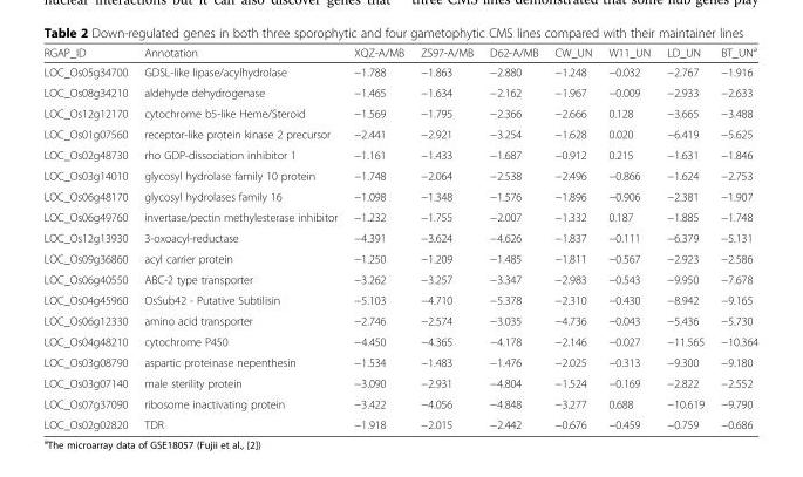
<table><thead><tr><td>RGAP_ID</td><td>Annotation</td><td>XQZ-A/MB</td><td>ZS97-A/MB</td><td>D62-A/MB</td><td>CW_UN</td><td>W11_UN</td><td>LD_UN</td><td>BT_UN<sup>a</sup></td></tr></thead><tbody><tr><td>LOC_Os05g34700</td><td>GDSL-like lipase/acylhydrolase</td><td>−1.788</td><td>−1.863</td><td>−2.880</td><td>−1.248</td><td>−0.032</td><td>−2.767</td><td>−1.916</td></tr><tr><td>LOC_Os08g34210</td><td>aldehyde dehydrogenase</td><td>−1.465</td><td>−1.634</td><td>−2.162</td><td>−1.967</td><td>−0.009</td><td>−2.933</td><td>−2.633</td></tr><tr><td>LOC_Os12g12170</td><td>cytochrome b5-like Heme/Steroid</td><td>−1.569</td><td>−1.795</td><td>−2.366</td><td>−2.666</td><td>0.128</td><td>−3.665</td><td>−3.488</td></tr><tr><td>LOC_Os01g07560</td><td>receptor-like protein kinase 2 precursor</td><td>−2.441</td><td>−2.921</td><td>−3.254</td><td>−1.628</td><td>0.020</td><td>−6.419</td><td>−5.625</td></tr><tr><td>LOC_Os02g48730</td><td>rho GDP-dissociation inhibitor 1</td><td>−1.161</td><td>−1.433</td><td>−1.687</td><td>−0.912</td><td>0.215</td><td>−1.631</td><td>−1.846</td></tr><tr><td>LOC_Os03g14010</td><td>glycosyl hydrolase family 10 protein</td><td>−1.748</td><td>−2.064</td><td>−2.538</td><td>−2.496</td><td>−0.866</td><td>−1.624</td><td>−2.753</td></tr><tr><td>LOC_Os06g48170</td><td>glycosyl hydrolases family 16</td><td>−1.098</td><td>−1.348</td><td>−1.576</td><td>−1.896</td><td>−0.906</td><td>−2.381</td><td>−1.907</td></tr><tr><td>LOC_Os06g49760</td><td>invertase/pectin methylesterase inhibitor</td><td>−1.232</td><td>−1.755</td><td>−2.007</td><td>−1.332</td><td>0.187</td><td>−1.885</td><td>−1.748</td></tr><tr><td>LOC_Os12g13930</td><td>3-oxoacyl-reductase</td><td>−4.391</td><td>−3.624</td><td>−4.626</td><td>−1.837</td><td>−0.111</td><td>−6.379</td><td>−5.131</td></tr><tr><td>LOC_Os09g36860</td><td>acyl carrier protein</td><td>−1.250</td><td>−1.209</td><td>−1.485</td><td>−1.811</td><td>−0.567</td><td>−2.923</td><td>−2.586</td></tr><tr><td>LOC_Os06g40550</td><td>ABC-2 type transporter</td><td>−3.262</td><td>−3.257</td><td>−3.347</td><td>−2.983</td><td>−0.543</td><td>−9.950</td><td>−7.678</td></tr><tr><td>LOC_Os04g45960</td><td>OsSub42 - Putative Subtilisin</td><td>−5.103</td><td>−4.710</td><td>−5.378</td><td>−2.310</td><td>−0.430</td><td>−8.942</td><td>−9.165</td></tr><tr><td>LOC_Os06g12330</td><td>amino acid transporter</td><td>−2.746</td><td>−2.574</td><td>−3.035</td><td>−4.736</td><td>−0.043</td><td>−5.436</td><td>−5.730</td></tr><tr><td>LOC_Os04g48210</td><td>cytochrome P450</td><td>−4.450</td><td>−4.365</td><td>−4.178</td><td>−2.146</td><td>−0.027</td><td>−11.565</td><td>−10.364</td></tr><tr><td>LOC_Os03g08790</td><td>aspartic proteinase nepenthesin</td><td>−1.534</td><td>−1.483</td><td>−1.476</td><td>−2.025</td><td>−0.313</td><td>−9.300</td><td>−9.180</td></tr><tr><td>LOC_Os03g07140</td><td>male sterility protein</td><td>−3.090</td><td>−2.931</td><td>−4.804</td><td>−1.524</td><td>−0.169</td><td>−2.822</td><td>−2.552</td></tr><tr><td>LOC_Os07g37090</td><td>ribosome inactivating protein</td><td>−3.422</td><td>−4.056</td><td>−4.848</td><td>−3.277</td><td>0.688</td><td>−10.619</td><td>−9.790</td></tr><tr><td>LOC_Os02g02820</td><td>TDR</td><td>−1.918</td><td>−2.015</td><td>−2.442</td><td>−0.676</td><td>−0.459</td><td>−0.759</td><td>−0.686</td></tr></tbody></table>